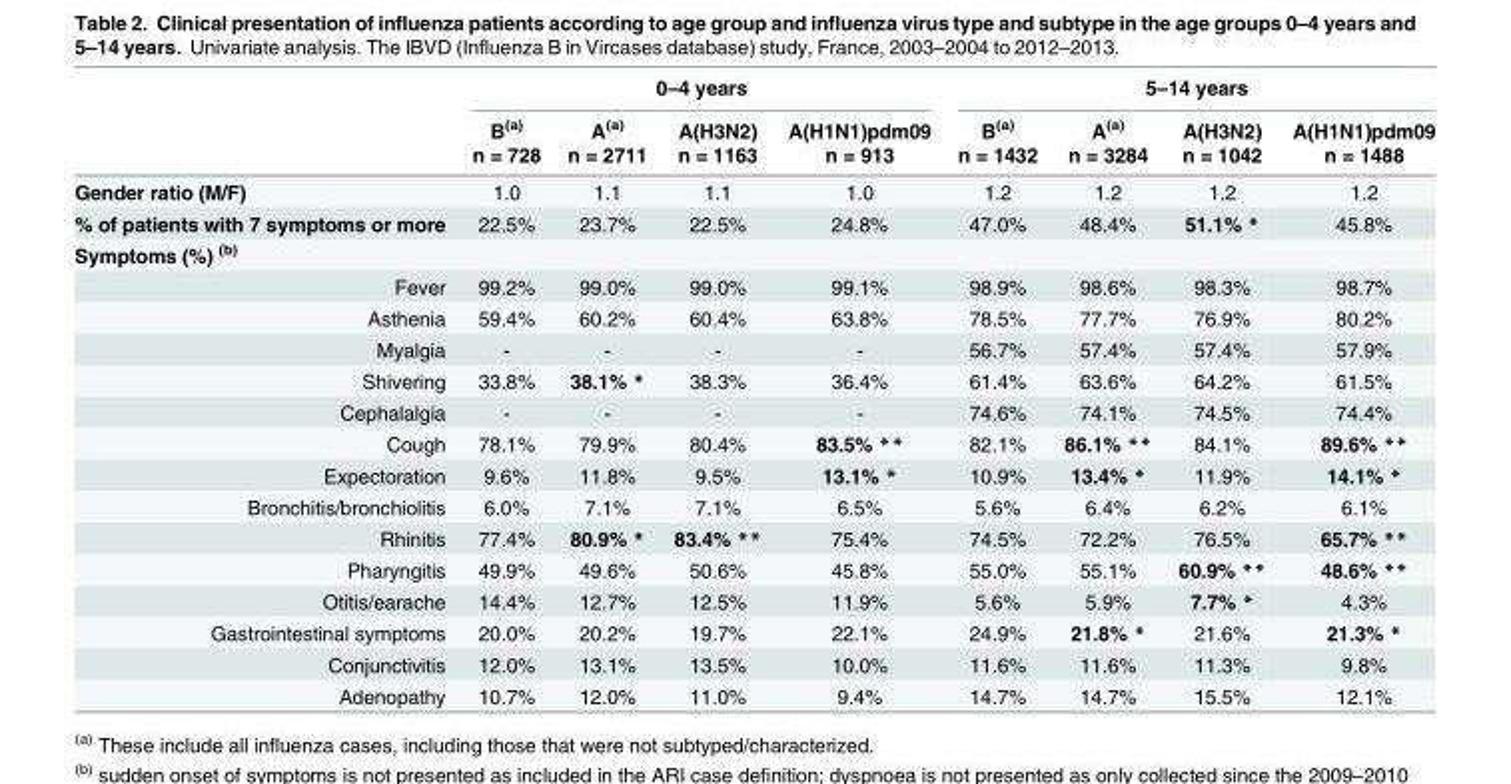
<table><thead><tr><td rowspan="3"></td><td colspan="4">0–4 years</td><td colspan="4">5–14 years</td></tr><tr><td rowspan="2">B<sup>(a)</sup> n = 728</td><td rowspan="2">A<sup>(a)</sup> n = 2711</td><td rowspan="2">A(H3N2) n = 1163</td><td rowspan="2">A(H1N1)pdm09 n = 913</td><td rowspan="2">B<sup>(a)</sup> n = 1432</td><td rowspan="2">A<sup>(a)</sup> n = 3284</td><td rowspan="2">A(H3N2) n = 1042</td><td rowspan="2">A(H1N1)pdm09 n = 1488</td></tr><tr></tr></thead><tbody><tr><td>Gender ratio (M/F)</td><td>1.0</td><td>1.1</td><td>1.1</td><td>1.0</td><td>1.2</td><td>1.2</td><td>1.2</td><td>1.2</td></tr><tr><td>% of patients with 7 symptoms or more</td><td>22.5%</td><td>23.7%</td><td>22.5%</td><td>24.8%</td><td>47.0%</td><td>48.4%</td><td>51.1% *</td><td>45.8%</td></tr><tr><td colspan="9">Symptoms (%) <sup>(b)</sup></td></tr><tr><td>Fever</td><td>99.2%</td><td>99.0%</td><td>99.0%</td><td>99.1%</td><td>98.9%</td><td>98.6%</td><td>98.3%</td><td>98.7%</td></tr><tr><td>Asthenia</td><td>59.4%</td><td>60.2%</td><td>60.4%</td><td>63.8%</td><td>78.5%</td><td>77.7%</td><td>76.9%</td><td>80.2%</td></tr><tr><td>Myalgia</td><td>-</td><td>-</td><td>-</td><td>-</td><td>56.7%</td><td>57.4%</td><td>57.4%</td><td>57.9%</td></tr><tr><td>Shivering</td><td>33.8%</td><td>38.1% *</td><td>38.3%</td><td>36.4%</td><td>61.4%</td><td>63.6%</td><td>64.2%</td><td>61.5%</td></tr><tr><td>Cephalalgia</td><td>-</td><td>-</td><td>-</td><td>-</td><td>74.6%</td><td>74.1%</td><td>74.5%</td><td>74.4%</td></tr><tr><td>Cough</td><td>78.1%</td><td>79.9%</td><td>80.4%</td><td>83.5% **</td><td>82.1%</td><td>86.1% **</td><td>84.1%</td><td>89.6% **</td></tr><tr><td>Expectoration</td><td>9.6%</td><td>11.8%</td><td>9.5%</td><td>13.1% *</td><td>10.9%</td><td>13.4% *</td><td>11.9%</td><td>14.1% *</td></tr><tr><td>Bronchitis/bronchiolitis</td><td>6.0%</td><td>7.1%</td><td>7.1%</td><td>6.5%</td><td>5.6%</td><td>6.4%</td><td>6.2%</td><td>6.1%</td></tr><tr><td>Rhinitis</td><td>77.4%</td><td>80.9% *</td><td>83.4% **</td><td>75.4%</td><td>74.5%</td><td>72.2%</td><td>76.5%</td><td>65.7% **</td></tr><tr><td>Pharyngitis</td><td>49.9%</td><td>49.6%</td><td>50.6%</td><td>45.8%</td><td>55.0%</td><td>55.1%</td><td>60.9% **</td><td>48.6% **</td></tr><tr><td>Otitis/earache</td><td>14.4%</td><td>12.7%</td><td>12.5%</td><td>11.9%</td><td>5.6%</td><td>5.9%</td><td>7.7% *</td><td>4.3%</td></tr><tr><td>Gastrointestinal symptoms</td><td>20.0%</td><td>20.2%</td><td>19.7%</td><td>22.1%</td><td>24.9%</td><td>21.8% *</td><td>21.6%</td><td>21.3% *</td></tr><tr><td>Conjunctivitis</td><td>12.0%</td><td>13.1%</td><td>13.5%</td><td>10.0%</td><td>11.6%</td><td>11.6%</td><td>11.3%</td><td>9.8%</td></tr><tr><td>Adenopathy</td><td>10.7%</td><td>12.0%</td><td>11.0%</td><td>9.4%</td><td>14.7%</td><td>14.7%</td><td>15.5%</td><td>12.1%</td></tr></tbody></table>